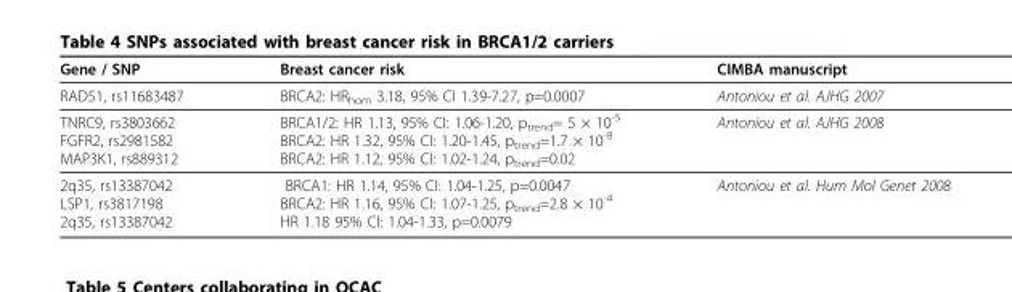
<table><thead><tr><td>Gene / SNP</td><td>Breast cancer risk</td><td>CIMBA manuscript</td></tr></thead><tbody><tr><td>RAD51, rs11683487</td><td>BRCA2: HR<sub>hom</sub> 3.18, 95% CI 1.39-7.27, p=0.0007</td><td>Antoniou et al. AJHG 2007</td></tr><tr><td>TNRC9, rs3803662 FGFR2, rs2981582 MAP3K1, rs889312</td><td>BRCA1/2: HR 1.13, 95% CI: 1.06-1.20, p<sub>trend</sub>= 5 × 10<sup>-5</sup> BRCA2: HR 1.32, 95% CI: 1.20-1.45, p<sub>trend</sub>=1.7 × 10<sup>-8</sup> BRCA2: HR 1.12, 95% CI: 1.02-1.24, p<sub>trend</sub>=0.02</td><td>Antoniou et al. AJHG 2008</td></tr><tr><td>2q35, rs13387042 LSP1, rs3817198 2q35, rs13387042</td><td>BRCA1: HR 1.14, 95% CI: 1.04-1.25, p=0.0047 BRCA2: HR 1.16, 95% CI: 1.07-1.25, p<sub>trend</sub>=2.8 × 10<sup>-4</sup> HR 1.18 95% CI: 1.04-1.33, p=0.0079</td><td>Antoniou et al. Hum Mol Genet 2008</td></tr></tbody></table>